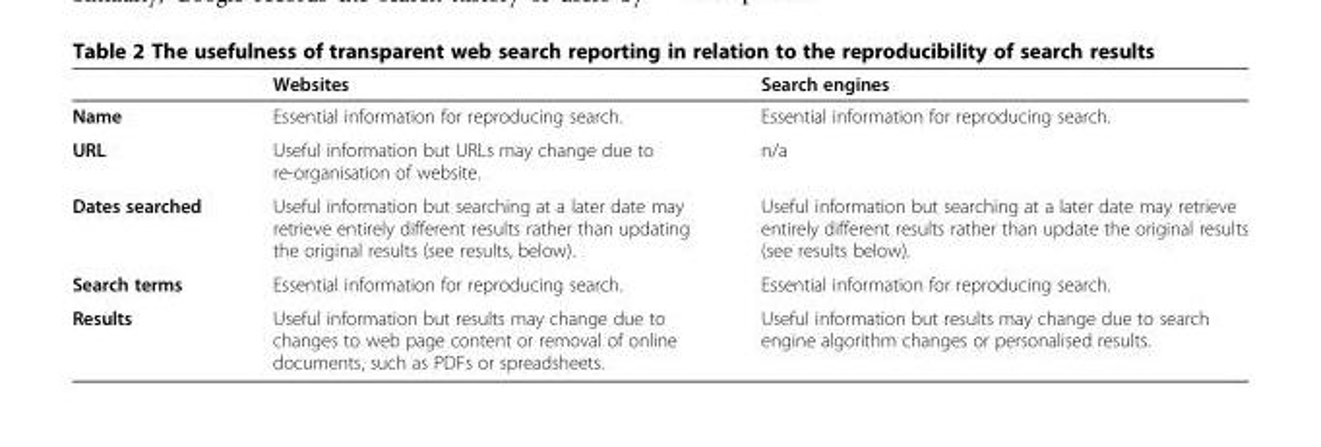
<table><thead><tr><td></td><td>Websites</td><td>Search engines</td></tr></thead><tbody><tr><td>Name</td><td>Essential information for reproducing search.</td><td>Essential information for reproducing search.</td></tr><tr><td>URL</td><td>Useful information but URLs may change due to re-organisation of website.</td><td>n/a</td></tr><tr><td>Dates searched</td><td>Useful information but searching at a later date may retrieve entirely different results rather than updating the original results (see results, below).</td><td>Useful information but searching at a later date may retrieve entirely different results rather than update the original results (see results below).</td></tr><tr><td>Search terms</td><td>Essential information for reproducing search.</td><td>Essential information for reproducing search.</td></tr><tr><td>Results</td><td>Useful information but results may change due to changes to web page content or removal of online documents, such as PDFs or spreadsheets.</td><td>Useful information but results may change due to search engine algorithm changes or personalised results.</td></tr></tbody></table>